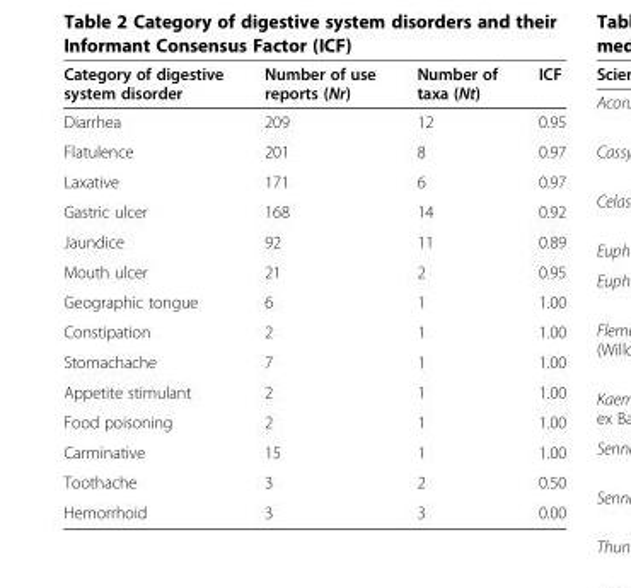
<table><thead><tr><td>Category of digestive system disorder</td><td>Number of use reports (Nr)</td><td>Number of taxa (Nt)</td><td>ICF</td></tr></thead><tbody><tr><td>Diarrhea</td><td>209</td><td>12</td><td>0.95</td></tr><tr><td>Flatulence</td><td>201</td><td>8</td><td>0.97</td></tr><tr><td>Laxative</td><td>171</td><td>6</td><td>0.97</td></tr><tr><td>Gastric ulcer</td><td>168</td><td>14</td><td>0.92</td></tr><tr><td>Jaundice</td><td>92</td><td>11</td><td>0.89</td></tr><tr><td>Mouth ulcer</td><td>21</td><td>2</td><td>0.95</td></tr><tr><td>Geographic tongue</td><td>6</td><td>1</td><td>1.00</td></tr><tr><td>Constipation</td><td>2</td><td>1</td><td>1.00</td></tr><tr><td>Stomachache</td><td>7</td><td>1</td><td>1.00</td></tr><tr><td>Appetite stimulant</td><td>2</td><td>1</td><td>1.00</td></tr><tr><td>Food poisoning</td><td>2</td><td>1</td><td>1.00</td></tr><tr><td>Carminative</td><td>15</td><td>1</td><td>1.00</td></tr><tr><td>Toothache</td><td>3</td><td>2</td><td>0.50</td></tr><tr><td>Hemorrhoid</td><td>3</td><td>3</td><td>0.00</td></tr></tbody></table>